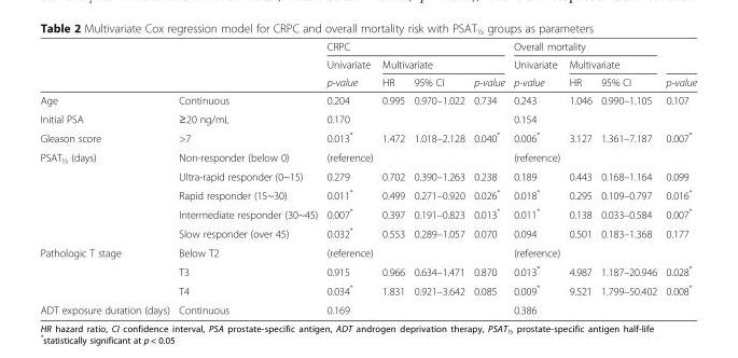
<table><thead><tr><td rowspan="3"></td><td rowspan="3"></td><td colspan="4">CRPC</td><td colspan="3">Overall mortality</td><td rowspan="3">p-value</td></tr><tr><td rowspan="2">Univariate p-value</td><td colspan="3">Multivariate</td><td rowspan="2">Univariate p-value</td><td colspan="2">Multivariate</td></tr><tr><td>HR</td><td>95% CI</td><td>p-value</td><td>HR</td><td>95% CI</td></tr></thead><tbody><tr><td>Age</td><td>Continuous</td><td>0.204</td><td>0.995</td><td>0.970–1.022</td><td>0.734</td><td>0.243</td><td>1.046</td><td>0.990–1.105</td><td>0.107</td></tr><tr><td>Initial PSA</td><td>≥20 ng/mL</td><td>0.170</td><td></td><td></td><td></td><td>0.154</td><td></td><td></td><td></td></tr><tr><td>Gleason score</td><td>&gt;7</td><td>0.013*</td><td>1.472</td><td>1.018–2.128</td><td>0.040*</td><td>0.006*</td><td>3.127</td><td>1.361–7.187</td><td>0.007*</td></tr><tr><td rowspan="5">PSAT<sub>½</sub> (days)</td><td>Non-responder (below 0)</td><td>(reference)</td><td></td><td></td><td></td><td>(reference)</td><td></td><td></td><td></td></tr><tr><td>Ultra-rapid responder (0~15)</td><td>0.279</td><td>0.702</td><td>0.390–1.263</td><td>0.238</td><td>0.189</td><td>0.443</td><td>0.168–1.164</td><td>0.099</td></tr><tr><td>Rapid responder (15~30)</td><td>0.011*</td><td>0.499</td><td>0.271–0.920</td><td>0.026*</td><td>0.018*</td><td>0.295</td><td>0.109–0.797</td><td>0.016*</td></tr><tr><td>Intermediate responder (30~45)</td><td>0.007*</td><td>0.397</td><td>0.191–0.823</td><td>0.013*</td><td>0.011*</td><td>0.138</td><td>0.033–0.584</td><td>0.007*</td></tr><tr><td>Slow responder (over 45)</td><td>0.032*</td><td>0.553</td><td>0.289–1.057</td><td>0.070</td><td>0.094</td><td>0.501</td><td>0.183–1.368</td><td>0.177</td></tr><tr><td rowspan="3">Pathologic T stage</td><td>Below T2</td><td>(reference)</td><td></td><td></td><td></td><td>(reference)</td><td></td><td></td><td></td></tr><tr><td>T3</td><td>0.915</td><td>0.966</td><td>0.634–1.471</td><td>0.870</td><td>0.013*</td><td>4.987</td><td>1.187–20.946</td><td>0.028*</td></tr><tr><td>T4</td><td>0.034*</td><td>1.831</td><td>0.921–3.642</td><td>0.085</td><td>0.009*</td><td>9.521</td><td>1.799–50.402</td><td>0.008*</td></tr><tr><td>ADT exposure duration (days)</td><td>Continuous</td><td>0.169</td><td></td><td></td><td></td><td>0.386</td><td></td><td></td><td></td></tr></tbody></table>